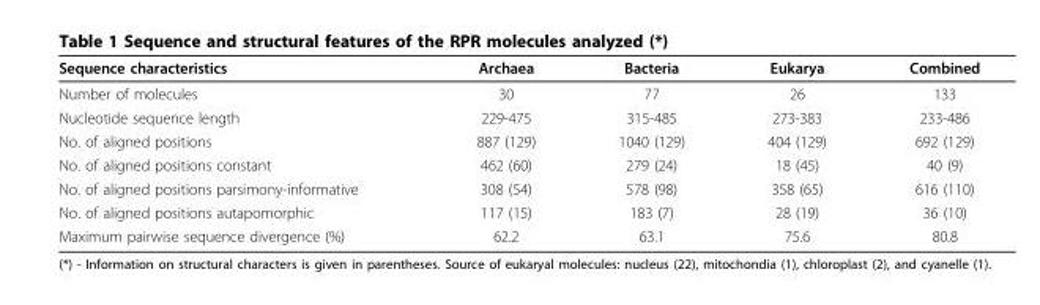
<table><thead><tr><td>Sequence characteristics</td><td>Archaea</td><td>Bacteria</td><td>Eukarya</td><td>Combined</td></tr></thead><tbody><tr><td>Number of molecules</td><td>30</td><td>77</td><td>26</td><td>133</td></tr><tr><td>Nucleotide sequence length</td><td>229-475</td><td>315-485</td><td>273-383</td><td>233-486</td></tr><tr><td>No. of aligned positions</td><td>887 (129)</td><td>1040 (129)</td><td>404 (129)</td><td>692 (129)</td></tr><tr><td>No. of aligned positions constant</td><td>462 (60)</td><td>279 (24)</td><td>18 (45)</td><td>40 (9)</td></tr><tr><td>No. of aligned positions parsimony-informative</td><td>308 (54)</td><td>578 (98)</td><td>358 (65)</td><td>616 (110)</td></tr><tr><td>No. of aligned positions autapomorphic</td><td>117 (15)</td><td>183 (7)</td><td>28 (19)</td><td>36 (10)</td></tr><tr><td>Maximum pairwise sequence divergence (%)</td><td>62.2</td><td>63.1</td><td>75.6</td><td>80.8</td></tr></tbody></table>